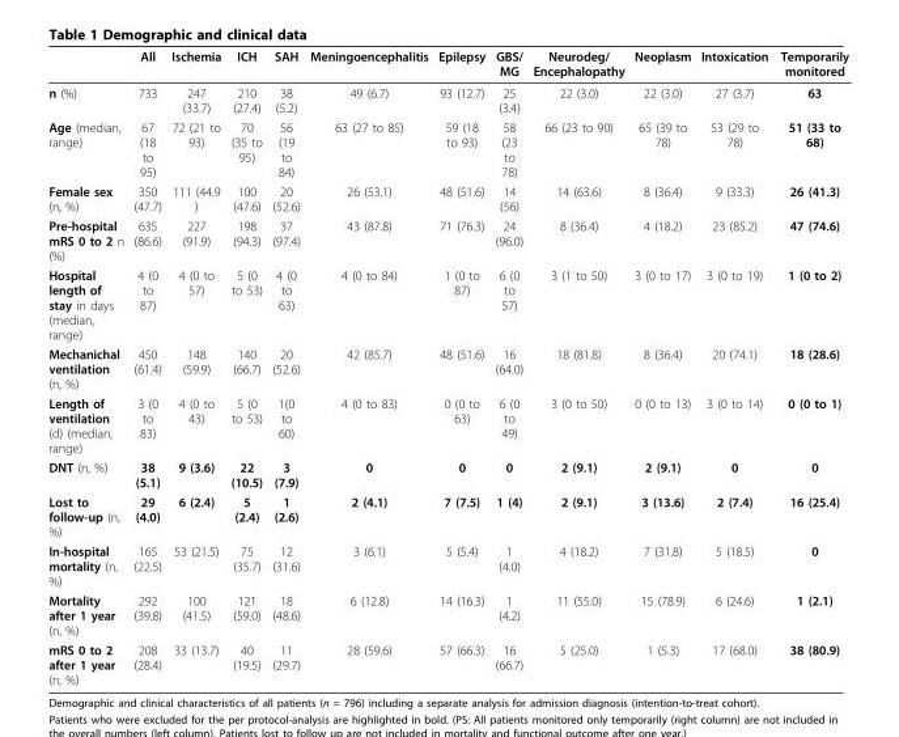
<table><thead><tr><td></td><td>All</td><td>Ischemia</td><td>ICH</td><td>SAH</td><td>Meningoencephalitis</td><td>Epilepsy</td><td>GBS/ MG</td><td>Neurodeg/ Encephalopathy</td><td>Neoplasm</td><td>Intoxication</td><td>Temporarily monitored</td></tr></thead><tbody><tr><td>n (%)</td><td>733</td><td>247 (33.7)</td><td>210 (27.4)</td><td>38 (5.2)</td><td>49 (6.7)</td><td>93 (12.7)</td><td>25 (3.4)</td><td>22 (3.0)</td><td>22 (3.0)</td><td>27 (3.7)</td><td>63</td></tr><tr><td>Age (median, range)</td><td>67 (18 to 95)</td><td>72 (21 to 93)</td><td>70 (35 to 95)</td><td>56 (19 to 84)</td><td>63 (27 to 85)</td><td>59 (18 to 93)</td><td>58 (23 to 78)</td><td>66 (23 to 90)</td><td>65 (39 to 78)</td><td>53 (29 to 78)</td><td>51 (33 to 68)</td></tr><tr><td>Female sex (n, %)</td><td>350 (47.7)</td><td>111 (44.9 )</td><td>100 (47.6)</td><td>20 (52.6)</td><td>26 (53.1)</td><td>48 (51.6)</td><td>14 (56)</td><td>14 (63.6)</td><td>8 (36.4)</td><td>9 (33.3)</td><td>26 (41.3)</td></tr><tr><td>Pre-hospital mRS 0 to 2 n (%)</td><td>635 (86.6)</td><td>227 (91.9)</td><td>198 (94.3)</td><td>37 (97.4)</td><td>43 (87.8)</td><td>71 (76.3)</td><td>24 (96.0)</td><td>8 (36.4)</td><td>4 (18.2)</td><td>23 (85.2)</td><td>47 (74.6)</td></tr><tr><td>Hospital length of stay in days (median, range)</td><td>4 (0 to 87)</td><td>4 (0 to 57)</td><td>5 (0 to 53)</td><td>4 (0 to 63)</td><td>4 (0 to 84)</td><td>1 (0 to 87)</td><td>6 (0 to 57)</td><td>3 (1 to 50)</td><td>3 (0 to 17)</td><td>3 (0 to 19)</td><td>1 (0 to 2)</td></tr><tr><td>Mechanichal ventilation (n, %)</td><td>450 (61.4)</td><td>148 (59.9)</td><td>140 (66.7)</td><td>20 (52.6)</td><td>42 (85.7)</td><td>48 (51.6)</td><td>16 (64.0)</td><td>18 (81.8)</td><td>8 (36.4)</td><td>20 (74.1)</td><td>18 (28.6)</td></tr><tr><td>Length of ventilation (d) (median, range)</td><td>3 (0 to 83)</td><td>4 (0 to 43)</td><td>5 (0 to 53)</td><td>1(0 to 60)</td><td>4 (0 to 83)</td><td>0 (0 to 63)</td><td>6 (0 to 49)</td><td>3 (0 to 50)</td><td>0 (0 to 13)</td><td>3 (0 to 14)</td><td>0 (0 to 1)</td></tr><tr><td>DNT (n, %)</td><td>38 (5.1)</td><td>9 (3.6)</td><td>22 (10.5)</td><td>3 (7.9)</td><td>0</td><td>0</td><td>0</td><td>2 (9.1)</td><td>2 (9.1)</td><td>0</td><td>0</td></tr><tr><td>Lost to follow-up (n, %)</td><td>29 (4.0)</td><td>6 (2.4)</td><td>5 (2.4)</td><td>1 (2.6)</td><td>2 (4.1)</td><td>7 (7.5)</td><td>1 (4)</td><td>2 (9.1)</td><td>3 (13.6)</td><td>2 (7.4)</td><td>16 (25.4)</td></tr><tr><td>In-hospital mortality (n, %)</td><td>165 (22.5)</td><td>53 (21.5)</td><td>75 (35.7)</td><td>12 (31.6)</td><td>3 (6.1)</td><td>5 (5.4)</td><td>1 (4.0)</td><td>4 (18.2)</td><td>7 (31.8)</td><td>5 (18.5)</td><td>0</td></tr><tr><td>Mortality after 1 year (n, %)</td><td>292 (39.8)</td><td>100 (41.5)</td><td>121 (59.0)</td><td>18 (48.6)</td><td>6 (12.8)</td><td>14 (16.3)</td><td>1 (4.2)</td><td>11 (55.0)</td><td>15 (78.9)</td><td>6 (24.6)</td><td>1 (2.1)</td></tr><tr><td>mRS 0 to 2 after 1 year (n, %)</td><td>208 (28.4)</td><td>33 (13.7)</td><td>40 (19.5)</td><td>11 (29.7)</td><td>28 (59.6)</td><td>57 (66.3)</td><td>16 (66.7)</td><td>5 (25.0)</td><td>1 (5.3)</td><td>17 (68.0)</td><td>38 (80.9)</td></tr></tbody></table>